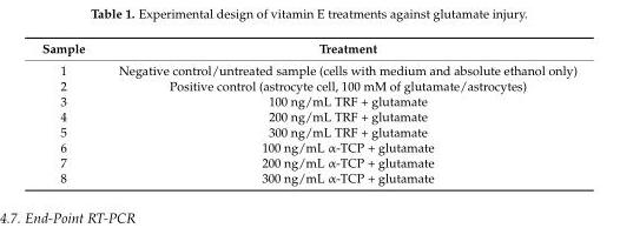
<table><thead><tr><td>Sample</td><td>Treatment</td></tr></thead><tbody><tr><td>1</td><td>Negative control/untreated sample (cells with medium and absolute ethanol only)</td></tr><tr><td>2</td><td>Positive control (astrocyte cell, 100 mM of glutamate/astrocytes)</td></tr><tr><td>3</td><td>100 ng/mL TRF + glutamate</td></tr><tr><td>4</td><td>200 ng/mL TRF + glutamate</td></tr><tr><td>5</td><td>300 ng/mL TRF + glutamate</td></tr><tr><td>6</td><td>100 ng/mL α-TCP + glutamate</td></tr><tr><td>7</td><td>200 ng/mL α-TCP + glutamate</td></tr><tr><td>8</td><td>300 ng/mL α-TCP + glutamate</td></tr></tbody></table>